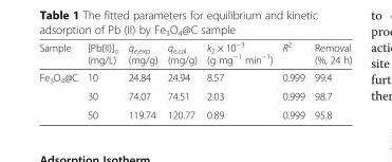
<table><thead><tr><td>Sample</td><td>[Pb(II)]<sub>o</sub> (mg/L)</td><td>q<sub>e,exp</sub> (mg/g)</td><td>q<sub>e,cal</sub> (mg/g)</td><td>k<sub>2</sub> × 10<sup>−3</sup> (g mg<sup>−1</sup> min<sup>−1</sup>)</td><td>R<sup>2</sup></td><td>Removal (%, 24 h)</td></tr></thead><tbody><tr><td rowspan="3">Fe<sub>3</sub>O<sub>4</sub>@C</td><td>10</td><td>24.84</td><td>24.94</td><td>8.57</td><td>0.999</td><td>99.4</td></tr><tr><td>30</td><td>74.07</td><td>74.51</td><td>2.03</td><td>0.999</td><td>98.7</td></tr><tr><td>50</td><td>119.74</td><td>120.77</td><td>0.89</td><td>0.999</td><td>95.8</td></tr></tbody></table>